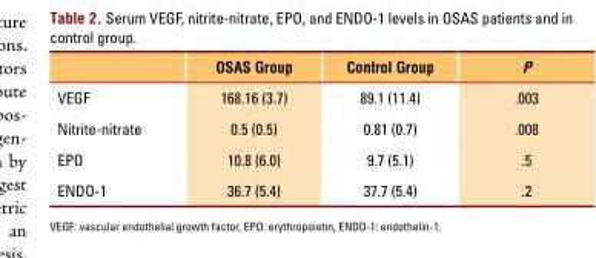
<table><thead><tr><td></td><td>OSAS Group</td><td>Control Group</td><td>P</td></tr></thead><tbody><tr><td>VEGF</td><td>168.16 (3.7)</td><td>89.1 (11.4)</td><td>.003</td></tr><tr><td>Nitrite-nitrate</td><td>0.5 (0.5)</td><td>0.81 (0.7)</td><td>.008</td></tr><tr><td>EPO</td><td>10.8 (6.0)</td><td>9.7 (5.1)</td><td>.5</td></tr><tr><td>ENDO-1</td><td>36.7 (5.4)</td><td>37.7 (5.4)</td><td>.2</td></tr></tbody></table>